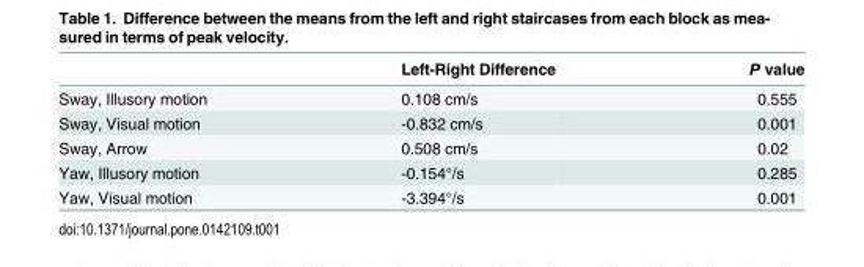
<table><thead><tr><td></td><td>Left-Right Difference</td><td>P value</td></tr></thead><tbody><tr><td>Sway, Illusory motion</td><td>0.108 cm/s</td><td>0.555</td></tr><tr><td>Sway, Visual motion</td><td>-0.832 cm/s</td><td>0.001</td></tr><tr><td>Sway, Arrow</td><td>0.508 cm/s</td><td>0.02</td></tr><tr><td>Yaw, Illusory motion</td><td>-0.154°/s</td><td>0.285</td></tr><tr><td>Yaw, Visual motion</td><td>-3.394°/s</td><td>0.001</td></tr></tbody></table>